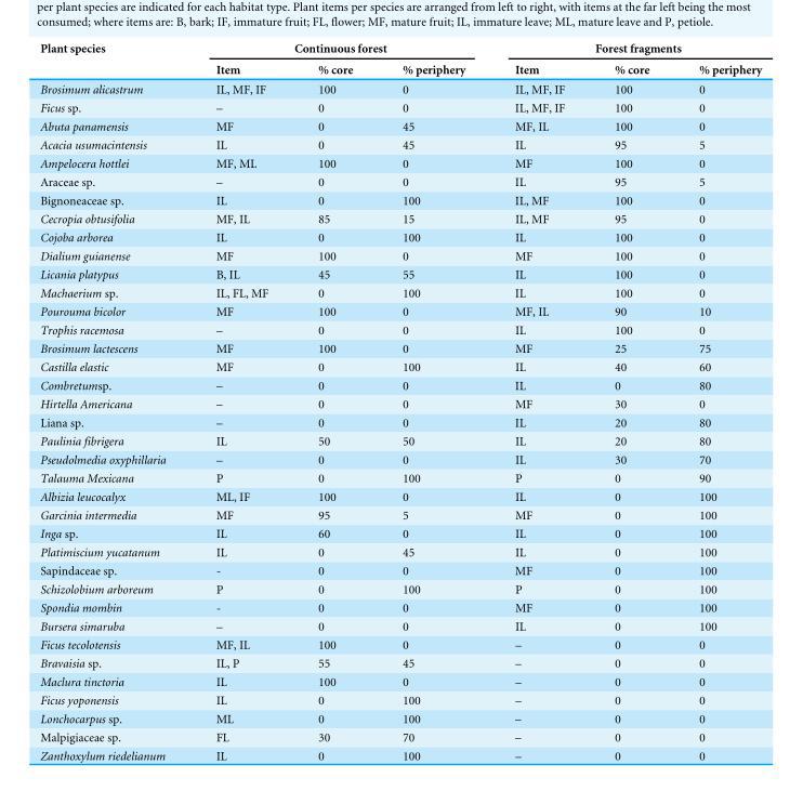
<table><thead><tr><td rowspan="2">Plant species</td><td colspan="3">Continuous forest</td><td colspan="3">Forest fragments</td></tr><tr><td>Item</td><td>% core</td><td>% periphery</td><td>Item</td><td>% core</td><td>% periphery</td></tr></thead><tbody><tr><td>Brosimum alicastrum</td><td>IL, MF, IF</td><td>100</td><td>0</td><td>IL, MF, IF</td><td>100</td><td>0</td></tr><tr><td>Ficus sp.</td><td>–</td><td>0</td><td>0</td><td>IL, MF, IF</td><td>100</td><td>0</td></tr><tr><td>Abuta panamensis</td><td>MF</td><td>0</td><td>45</td><td>MF, IL</td><td>100</td><td>0</td></tr><tr><td>Acacia usumacintensis</td><td>IL</td><td>0</td><td>45</td><td>IL</td><td>95</td><td>5</td></tr><tr><td>Ampelocera hottlei</td><td>MF, ML</td><td>100</td><td>0</td><td>MF</td><td>100</td><td>0</td></tr><tr><td>Araceae sp.</td><td>–</td><td>0</td><td>0</td><td>IL</td><td>95</td><td>5</td></tr><tr><td>Bignoneaceae sp.</td><td>IL</td><td>0</td><td>100</td><td>IL, MF</td><td>100</td><td>0</td></tr><tr><td>Cecropia obtusifolia</td><td>MF, IL</td><td>85</td><td>15</td><td>IL, MF</td><td>95</td><td>0</td></tr><tr><td>Cojoba arborea</td><td>IL</td><td>0</td><td>100</td><td>IL</td><td>100</td><td>0</td></tr><tr><td>Dialium guianense</td><td>MF</td><td>100</td><td>0</td><td>MF</td><td>100</td><td>0</td></tr><tr><td>Licania platypus</td><td>B, IL</td><td>45</td><td>55</td><td>IL</td><td>100</td><td>0</td></tr><tr><td>Machaerium sp.</td><td>IL, FL, MF</td><td>0</td><td>100</td><td>IL</td><td>100</td><td>0</td></tr><tr><td>Pourouma bicolor</td><td>MF</td><td>100</td><td>0</td><td>MF, IL</td><td>90</td><td>10</td></tr><tr><td>Trophis racemosa</td><td>–</td><td>0</td><td>0</td><td>IL</td><td>100</td><td>0</td></tr><tr><td>Brosimum lactescens</td><td>MF</td><td>100</td><td>0</td><td>MF</td><td>25</td><td>75</td></tr><tr><td>Castilla elastic</td><td>MF</td><td>0</td><td>100</td><td>IL</td><td>40</td><td>60</td></tr><tr><td>Combretumsp.</td><td>–</td><td>0</td><td>0</td><td>IL</td><td>0</td><td>80</td></tr><tr><td>Hirtella Americana</td><td>–</td><td>0</td><td>0</td><td>MF</td><td>30</td><td>0</td></tr><tr><td>Liana sp.</td><td>–</td><td>0</td><td>0</td><td>IL</td><td>20</td><td>80</td></tr><tr><td>Paulinia fibrigera</td><td>IL</td><td>50</td><td>50</td><td>IL</td><td>20</td><td>80</td></tr><tr><td>Pseudolmedia oxyphillaria</td><td>–</td><td>0</td><td>0</td><td>IL</td><td>30</td><td>70</td></tr><tr><td>Talauma Mexicana</td><td>P</td><td>0</td><td>100</td><td>P</td><td>0</td><td>90</td></tr><tr><td>Albizia leucocalyx</td><td>ML, IF</td><td>100</td><td>0</td><td>IL</td><td>0</td><td>100</td></tr><tr><td>Garcinia intermedia</td><td>MF</td><td>95</td><td>5</td><td>MF</td><td>0</td><td>100</td></tr><tr><td>Inga sp.</td><td>IL</td><td>60</td><td>0</td><td>IL</td><td>0</td><td>100</td></tr><tr><td>Platimiscium yucatanum</td><td>IL</td><td>0</td><td>45</td><td>IL</td><td>0</td><td>100</td></tr><tr><td>Sapindaceae sp.</td><td>-</td><td>0</td><td>0</td><td>MF</td><td>0</td><td>100</td></tr><tr><td>Schizolobium arboreum</td><td>P</td><td>0</td><td>100</td><td>P</td><td>0</td><td>100</td></tr><tr><td>Spondia mombin</td><td>-</td><td>0</td><td>0</td><td>MF</td><td>0</td><td>100</td></tr><tr><td>Bursera simaruba</td><td>–</td><td>0</td><td>0</td><td>IL</td><td>0</td><td>100</td></tr><tr><td>Ficus tecolotensis</td><td>MF, IL</td><td>100</td><td>0</td><td>–</td><td>0</td><td>0</td></tr><tr><td>Bravaisia sp.</td><td>IL, P</td><td>55</td><td>45</td><td>–</td><td>0</td><td>0</td></tr><tr><td>Maclura tinctoria</td><td>IL</td><td>100</td><td>0</td><td>–</td><td>0</td><td>0</td></tr><tr><td>Ficus yoponensis</td><td>IL</td><td>0</td><td>100</td><td>–</td><td>0</td><td>0</td></tr><tr><td>Lonchocarpus sp.</td><td>ML</td><td>0</td><td>100</td><td>–</td><td>0</td><td>0</td></tr><tr><td>Malpigiaceae sp.</td><td>FL</td><td>30</td><td>70</td><td>–</td><td>0</td><td>0</td></tr><tr><td>Zanthoxylum riedelianum</td><td>IL</td><td>0</td><td>100</td><td>–</td><td>0</td><td>0</td></tr></tbody></table>